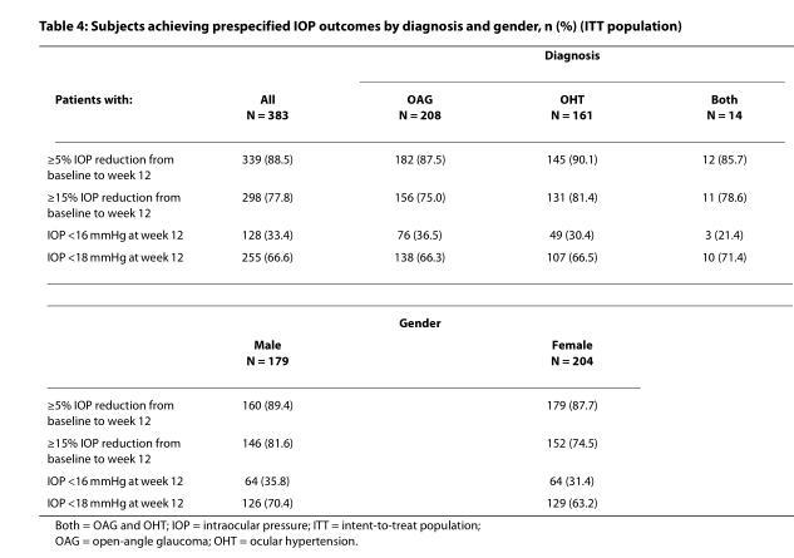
<table><thead><tr><td rowspan="2">Patients with:</td><td rowspan="2">All N = 383</td><td colspan="3">Diagnosis</td></tr><tr><td>OAG N = 208</td><td>OHT N = 161</td><td>Both N = 14</td></tr></thead><tbody><tr><td>≥5% IOP reduction from baseline to week 12</td><td>339 (88.5)</td><td>182 (87.5)</td><td>145 (90.1)</td><td>12 (85.7)</td></tr><tr><td>≥15% IOP reduction from baseline to week 12</td><td>298 (77.8)</td><td>156 (75.0)</td><td>131 (81.4)</td><td>11 (78.6)</td></tr><tr><td>IOP &lt;16 mmHg at week 12</td><td>128 (33.4)</td><td>76 (36.5)</td><td>49 (30.4)</td><td>3 (21.4)</td></tr><tr><td rowspan="3">IOP &lt;18 mmHg at week 12</td><td>255 (66.6)</td><td>138 (66.3)</td><td>107 (66.5)</td><td>10 (71.4)</td></tr><tr><td colspan="3">Gender</td><td></td></tr><tr><td>Male N = 179</td><td></td><td>Female N = 204</td><td></td></tr><tr><td>≥5% IOP reduction from baseline to week 12</td><td>160 (89.4)</td><td></td><td>179 (87.7)</td><td></td></tr><tr><td>≥15% IOP reduction from baseline to week 12</td><td>146 (81.6)</td><td></td><td>152 (74.5)</td><td></td></tr><tr><td>IOP &lt;16 mmHg at week 12</td><td>64 (35.8)</td><td></td><td>64 (31.4)</td><td></td></tr><tr><td>IOP &lt;18 mmHg at week 12</td><td>126 (70.4)</td><td></td><td>129 (63.2)</td><td></td></tr></tbody></table>